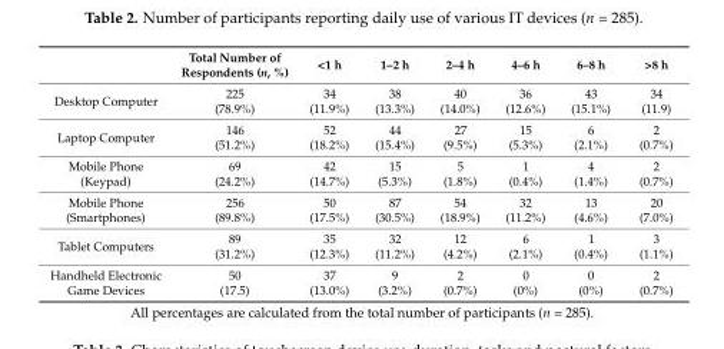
<table><thead><tr><td></td><td>Total Number of Respondents (n, %)</td><td>&lt;1 h</td><td>1–2 h</td><td>2–4 h</td><td>4–6 h</td><td>6–8 h</td><td>&gt;8 h</td></tr></thead><tbody><tr><td>Desktop Computer</td><td>225 (78.9%)</td><td>34 (11.9%)</td><td>38 (13.3%)</td><td>40 (14.0%)</td><td>36 (12.6%)</td><td>43 (15.1%)</td><td>34 (11.9)</td></tr><tr><td>Laptop Computer</td><td>146 (51.2%)</td><td>52 (18.2%)</td><td>44 (15.4%)</td><td>27 (9.5%)</td><td>15 (5.3%)</td><td>6 (2.1%)</td><td>2 (0.7%)</td></tr><tr><td>Mobile Phone (Keypad)</td><td>69 (24.2%)</td><td>42 (14.7%)</td><td>15 (5.3%)</td><td>5 (1.8%)</td><td>1 (0.4%)</td><td>4 (1.4%)</td><td>2 (0.7%)</td></tr><tr><td>Mobile Phone (Smartphones)</td><td>256 (89.8%)</td><td>50 (17.5%)</td><td>87 (30.5%)</td><td>54 (18.9%)</td><td>32 (11.2%)</td><td>13 (4.6%)</td><td>20 (7.0%)</td></tr><tr><td>Tablet Computers</td><td>89 (31.2%)</td><td>35 (12.3%)</td><td>32 (11.2%)</td><td>12 (4.2%)</td><td>6 (2.1%)</td><td>1 (0.4%)</td><td>3 (1.1%)</td></tr><tr><td>Handheld Electronic Game Devices</td><td>50 (17.5)</td><td>37 (13.0%)</td><td>9 (3.2%)</td><td>2 (0.7%)</td><td>0 (0%)</td><td>0 (0%)</td><td>2 (0.7%)</td></tr></tbody></table>